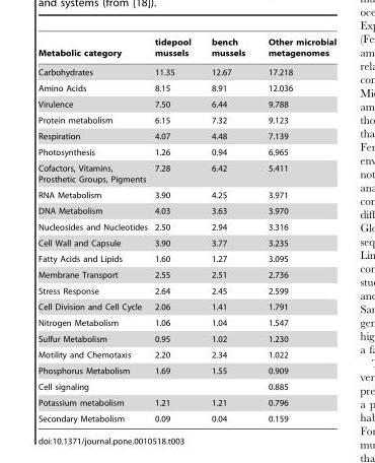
<table><thead><tr><td>Metabolic category</td><td>tidepool mussels</td><td>bench mussels</td><td>Other microbial metagenomes</td></tr></thead><tbody><tr><td>Carbohydrates</td><td>11.35</td><td>12.67</td><td>17.218</td></tr><tr><td>Amino Acids</td><td>8.15</td><td>8.91</td><td>12.036</td></tr><tr><td>Virulence</td><td>7.50</td><td>6.44</td><td>9.788</td></tr><tr><td>Protein metabolism</td><td>6.15</td><td>7.32</td><td>9.123</td></tr><tr><td>Respiration</td><td>4.07</td><td>4.48</td><td>7.139</td></tr><tr><td>Photosynthesis</td><td>1.26</td><td>0.94</td><td>6.965</td></tr><tr><td>Cofactors, Vitamins, Prosthetic Groups, Pigments</td><td>7.28</td><td>6.42</td><td>5.411</td></tr><tr><td>RNA Metabolism</td><td>3.90</td><td>4.25</td><td>3.971</td></tr><tr><td>DNA Metabolism</td><td>4.03</td><td>3.63</td><td>3.970</td></tr><tr><td>Nucleosides and Nucleotides</td><td>2.50</td><td>2.94</td><td>3.316</td></tr><tr><td>Cell Wall and Capsule</td><td>3.90</td><td>3.77</td><td>3.235</td></tr><tr><td>Fatty Acids and Lipids</td><td>1.60</td><td>1.27</td><td>3.095</td></tr><tr><td>Membrane Transport</td><td>2.55</td><td>2.51</td><td>2.736</td></tr><tr><td>Stress Response</td><td>2.64</td><td>2.45</td><td>2.599</td></tr><tr><td>Cell Division and Cell Cycle</td><td>2.06</td><td>1.41</td><td>1.791</td></tr><tr><td>Nitrogen Metabolism</td><td>1.06</td><td>1.04</td><td>1.547</td></tr><tr><td>Sulfur Metabolism</td><td>0.95</td><td>1.02</td><td>1.230</td></tr><tr><td>Motility and Chemotaxis</td><td>2.20</td><td>2.34</td><td>1.022</td></tr><tr><td>Phosphorus Metabolism</td><td>1.69</td><td>1.55</td><td>0.909</td></tr><tr><td>Cell signaling</td><td></td><td></td><td>0.885</td></tr><tr><td>Potassium metabolism</td><td>1.21</td><td>1.21</td><td>0.796</td></tr><tr><td>Secondary Metabolism</td><td>0.09</td><td>0.04</td><td>0.159</td></tr></tbody></table>